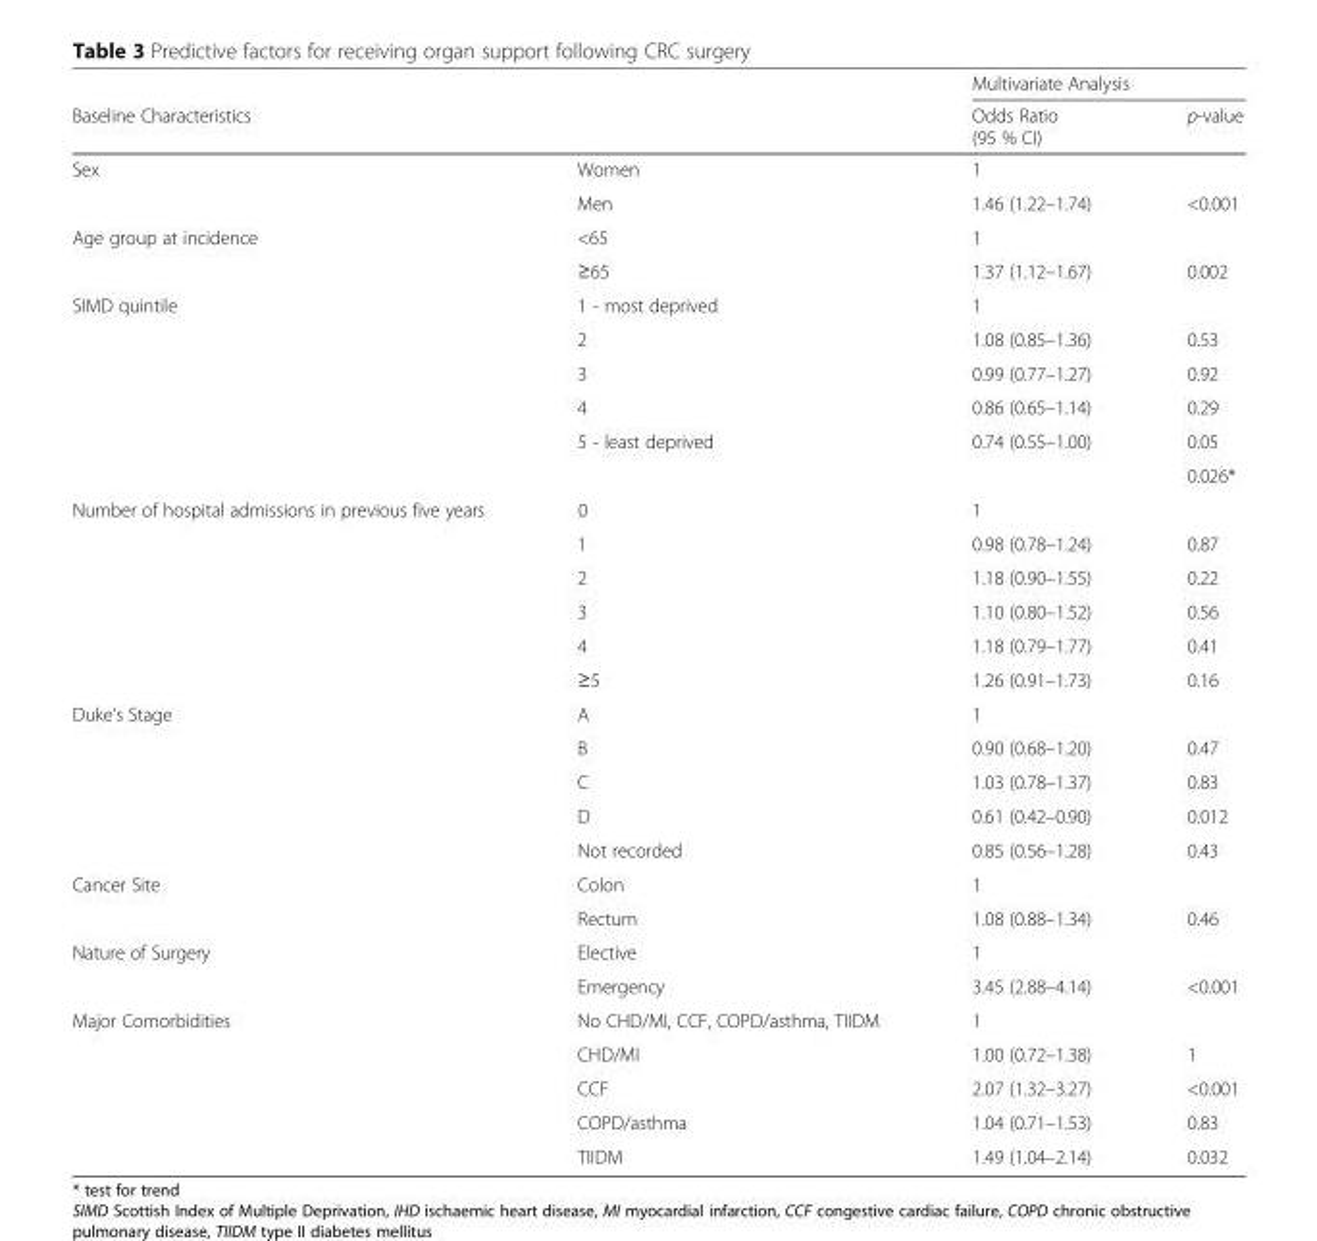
<table><thead><tr><td rowspan="2">Baseline Characteristics</td><td rowspan="2"></td><td colspan="2">Multivariate Analysis</td></tr><tr><td>Odds Ratio (95 % CI)</td><td>p-value</td></tr></thead><tbody><tr><td rowspan="2">Sex</td><td>Women</td><td>1</td><td></td></tr><tr><td>Men</td><td>1.46 (1.22–1.74)</td><td>&lt;0.001</td></tr><tr><td rowspan="2">Age group at incidence</td><td>&lt;65</td><td>1</td><td></td></tr><tr><td>≥65</td><td>1.37 (1.12–1.67)</td><td>0.002</td></tr><tr><td rowspan="6">SIMD quintile</td><td>1 - most deprived</td><td>1</td><td></td></tr><tr><td>2</td><td>1.08 (0.85–1.36)</td><td>0.53</td></tr><tr><td>3</td><td>0.99 (0.77–1.27)</td><td>0.92</td></tr><tr><td>4</td><td>0.86 (0.65–1.14)</td><td>0.29</td></tr><tr><td>5 - least deprived</td><td>0.74 (0.55–1.00)</td><td>0.05</td></tr><tr><td></td><td></td><td>0.026*</td></tr><tr><td rowspan="6">Number of hospital admissions in previous five years</td><td>0</td><td>1</td><td></td></tr><tr><td>1</td><td>0.98 (0.78–1.24)</td><td>0.87</td></tr><tr><td>2</td><td>1.18 (0.90–1.55)</td><td>0.22</td></tr><tr><td>3</td><td>1.10 (0.80–1.52)</td><td>0.56</td></tr><tr><td>4</td><td>1.18 (0.79–1.77)</td><td>0.41</td></tr><tr><td>≥5</td><td>1.26 (0.91–1.73)</td><td>0.16</td></tr><tr><td rowspan="5">Duke’s Stage</td><td>A</td><td>1</td><td></td></tr><tr><td>B</td><td>0.90 (0.68–1.20)</td><td>0.47</td></tr><tr><td>C</td><td>1.03 (0.78–1.37)</td><td>0.83</td></tr><tr><td>D</td><td>0.61 (0.42–0.90)</td><td>0.012</td></tr><tr><td>Not recorded</td><td>0.85 (0.56–1.28)</td><td>0.43</td></tr><tr><td rowspan="2">Cancer Site</td><td>Colon</td><td>1</td><td></td></tr><tr><td>Rectum</td><td>1.08 (0.88–1.34)</td><td>0.46</td></tr><tr><td rowspan="2">Nature of Surgery</td><td>Elective</td><td>1</td><td></td></tr><tr><td>Emergency</td><td>3.45 (2.88–4.14)</td><td>&lt;0.001</td></tr><tr><td rowspan="5">Major Comorbidities</td><td>No CHD/MI, CCF, COPD/asthma, TIIDM</td><td>1</td><td></td></tr><tr><td>CHD/MI</td><td>1.00 (0.72–1.38)</td><td>1</td></tr><tr><td>CCF</td><td>2.07 (1.32–3.27)</td><td>&lt;0.001</td></tr><tr><td>COPD/asthma</td><td>1.04 (0.71–1.53)</td><td>0.83</td></tr><tr><td>TIIDM</td><td>1.49 (1.04–2.14)</td><td>0.032</td></tr></tbody></table>